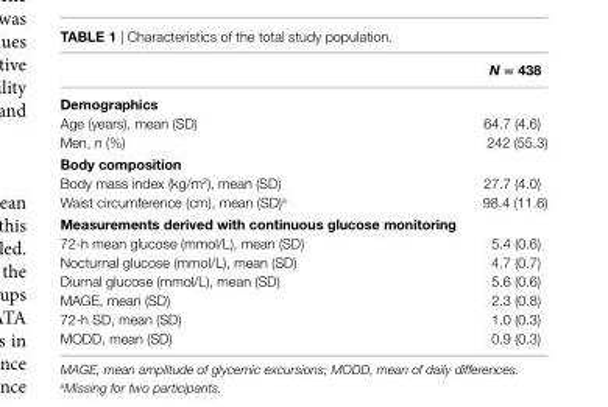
<table><thead><tr><td></td><td>N = 438</td></tr></thead><tbody><tr><td colspan="2">Demographics</td></tr><tr><td>Age (years), mean (SD)</td><td>64.7 (4.6)</td></tr><tr><td>Men, n (%)</td><td>242 (55.3)</td></tr><tr><td colspan="2">Body composition</td></tr><tr><td>Body mass index (kg/m<sup>2</sup>), mean (SD)</td><td>27.7 (4.0)</td></tr><tr><td>Waist circumference (cm), mean (SD)<sup>a</sup></td><td>98.4 (11.6)</td></tr><tr><td colspan="2">Measurements derived with continuous glucose monitoring</td></tr><tr><td>72-h mean glucose (mmol/L), mean (SD)</td><td>5.4 (0.6)</td></tr><tr><td>Nocturnal glucose (mmol/L), mean (SD)</td><td>4.7 (0.7)</td></tr><tr><td>Diurnal glucose (mmol/L), mean (SD)</td><td>5.6 (0.6)</td></tr><tr><td>MAGE, mean (SD)</td><td>2.3 (0.8)</td></tr><tr><td>72-h SD, mean (SD)</td><td>1.0 (0.3)</td></tr><tr><td>MODD, mean (SD)</td><td>0.9 (0.3)</td></tr></tbody></table>